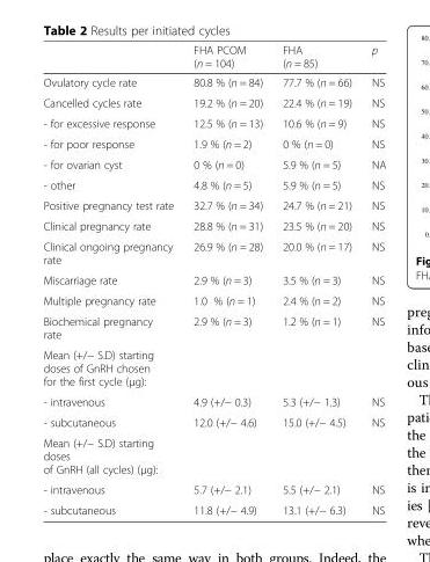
<table><thead><tr><td></td><td>FHA PCOM (n = 104)</td><td>FHA (n = 85)</td><td>p</td></tr></thead><tbody><tr><td>Ovulatory cycle rate</td><td>80.8 % (n = 84)</td><td>77.7 % (n = 66)</td><td>NS</td></tr><tr><td>Cancelled cycles rate</td><td>19.2 % (n = 20)</td><td>22.4 % (n = 19)</td><td>NS</td></tr><tr><td>- for excessive response</td><td>12.5 % (n = 13)</td><td>10.6 % (n = 9)</td><td>NS</td></tr><tr><td>- for poor response</td><td>1.9 % (n = 2)</td><td>0 % (n = 0)</td><td>NS</td></tr><tr><td>- for ovarian cyst</td><td>0 % (n = 0)</td><td>5.9 % (n = 5)</td><td>NA</td></tr><tr><td>- other</td><td>4.8 % (n = 5)</td><td>5.9 % (n = 5)</td><td>NS</td></tr><tr><td>Positive pregnancy test rate</td><td>32.7 % (n = 34)</td><td>24.7 % (n = 21)</td><td>NS</td></tr><tr><td>Clinical pregnancy rate</td><td>28.8 % (n = 31)</td><td>23.5 % (n = 20)</td><td>NS</td></tr><tr><td>Clinical ongoing pregnancy rate</td><td>26.9 % (n = 28)</td><td>20.0 % (n = 17)</td><td>NS</td></tr><tr><td>Miscarriage rate</td><td>2.9 % (n = 3)</td><td>3.5 % (n = 3)</td><td>NS</td></tr><tr><td>Multiple pregnancy rate</td><td>1.0 % (n = 1)</td><td>2.4 % (n = 2)</td><td>NS</td></tr><tr><td>Biochemical pregnancy rate</td><td>2.9 % (n = 3)</td><td>1.2 % (n = 1)</td><td>NS</td></tr><tr><td colspan="4">Mean (+/− S.D) starting doses of GnRH chosen for the first cycle (μg):</td></tr><tr><td>- intravenous</td><td>4.9 (+/− 0.3)</td><td>5.3 (+/− 1.3)</td><td>NS</td></tr><tr><td>- subcutaneous</td><td>12.0 (+/− 4.6)</td><td>15.0 (+/− 4.5)</td><td>NS</td></tr><tr><td colspan="4">Mean (+/− S.D) starting doses of GnRH (all cycles) (μg):</td></tr><tr><td>- intravenous</td><td>5.7 (+/− 2.1)</td><td>5.5 (+/− 2.1)</td><td>NS</td></tr><tr><td>- subcutaneous</td><td>11.8 (+/− 4.9)</td><td>13.1 (+/− 6.3)</td><td>NS</td></tr></tbody></table>